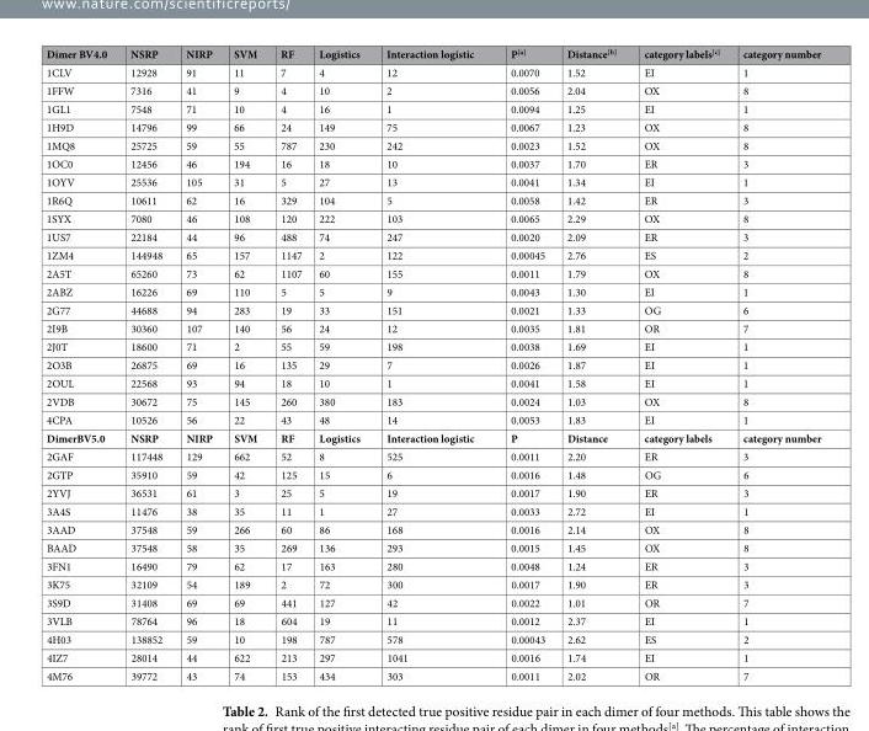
<table><thead><tr><td>Dimer BV4.0</td><td>NSRP</td><td>NIRP</td><td>SVM</td><td>RF</td><td>Logistics</td><td>Interaction logistic</td><td>P<sup>[a]</sup></td><td>Distance<sup>[b]</sup></td><td>category labels<sup>[c]</sup></td><td>category number</td></tr></thead><tbody><tr><td>1CLV</td><td>12928</td><td>91</td><td>11</td><td>7</td><td>4</td><td>12</td><td>0.0070</td><td>1.52</td><td>EI</td><td>1</td></tr><tr><td>1FFW</td><td>7316</td><td>41</td><td>9</td><td>4</td><td>10</td><td>2</td><td>0.0056</td><td>2.04</td><td>OX</td><td>8</td></tr><tr><td>1GL1</td><td>7548</td><td>71</td><td>10</td><td>4</td><td>16</td><td>1</td><td>0.0094</td><td>1.25</td><td>EI</td><td>1</td></tr><tr><td>1H9D</td><td>14796</td><td>99</td><td>66</td><td>24</td><td>149</td><td>75</td><td>0.0067</td><td>1.23</td><td>OX</td><td>8</td></tr><tr><td>1MQ8</td><td>25725</td><td>59</td><td>55</td><td>787</td><td>230</td><td>242</td><td>0.0023</td><td>1.52</td><td>OX</td><td>8</td></tr><tr><td>1OC0</td><td>12456</td><td>46</td><td>194</td><td>16</td><td>18</td><td>10</td><td>0.0037</td><td>1.70</td><td>ER</td><td>3</td></tr><tr><td>1OYV</td><td>25536</td><td>105</td><td>31</td><td>5</td><td>27</td><td>13</td><td>0.0041</td><td>1.34</td><td>EI</td><td>1</td></tr><tr><td>1R6Q</td><td>10611</td><td>62</td><td>16</td><td>329</td><td>104</td><td>5</td><td>0.0058</td><td>1.42</td><td>ER</td><td>3</td></tr><tr><td>1SYX</td><td>7080</td><td>46</td><td>108</td><td>120</td><td>222</td><td>103</td><td>0.0065</td><td>2.29</td><td>OX</td><td>8</td></tr><tr><td>1US7</td><td>22184</td><td>44</td><td>96</td><td>488</td><td>74</td><td>247</td><td>0.0020</td><td>2.09</td><td>ER</td><td>3</td></tr><tr><td>1ZM4</td><td>144948</td><td>65</td><td>157</td><td>1147</td><td>2</td><td>122</td><td>0.00045</td><td>2.76</td><td>ES</td><td>2</td></tr><tr><td>2A5T</td><td>65260</td><td>73</td><td>62</td><td>1107</td><td>60</td><td>155</td><td>0.0011</td><td>1.79</td><td>OX</td><td>8</td></tr><tr><td>2ABZ</td><td>16226</td><td>69</td><td>110</td><td>5</td><td>5</td><td>9</td><td>0.0043</td><td>1.30</td><td>EI</td><td>1</td></tr><tr><td>2G77</td><td>44688</td><td>94</td><td>283</td><td>19</td><td>33</td><td>151</td><td>0.0021</td><td>1.33</td><td>OG</td><td>6</td></tr><tr><td>2I9B</td><td>30360</td><td>107</td><td>140</td><td>56</td><td>24</td><td>12</td><td>0.0035</td><td>1.81</td><td>OR</td><td>7</td></tr><tr><td>2J0T</td><td>18600</td><td>71</td><td>2</td><td>55</td><td>59</td><td>198</td><td>0.0038</td><td>1.69</td><td>EI</td><td>1</td></tr><tr><td>2O3B</td><td>26875</td><td>69</td><td>16</td><td>135</td><td>29</td><td>7</td><td>0.0026</td><td>1.87</td><td>EI</td><td>1</td></tr><tr><td>2OUL</td><td>22568</td><td>93</td><td>94</td><td>18</td><td>10</td><td>1</td><td>0.0041</td><td>1.58</td><td>EI</td><td>1</td></tr><tr><td>2VDB</td><td>30672</td><td>75</td><td>145</td><td>260</td><td>380</td><td>183</td><td>0.0024</td><td>1.03</td><td>OX</td><td>8</td></tr><tr><td>4CPA</td><td>10526</td><td>56</td><td>22</td><td>43</td><td>48</td><td>14</td><td>0.0053</td><td>1.83</td><td>EI</td><td>1</td></tr><tr><td>DimerBV5.0</td><td>NSRP</td><td>NIRP</td><td>SVM</td><td>RF</td><td>Logistics</td><td>Interaction logistic</td><td>P</td><td>Distance</td><td>category labels</td><td>category number</td></tr><tr><td>2GAF</td><td>117448</td><td>129</td><td>662</td><td>52</td><td>8</td><td>525</td><td>0.0011</td><td>2.20</td><td>ER</td><td>3</td></tr><tr><td>2GTP</td><td>35910</td><td>59</td><td>42</td><td>125</td><td>15</td><td>6</td><td>0.0016</td><td>1.48</td><td>OG</td><td>6</td></tr><tr><td>2YVJ</td><td>36531</td><td>61</td><td>3</td><td>25</td><td>5</td><td>19</td><td>0.0017</td><td>1.90</td><td>ER</td><td>3</td></tr><tr><td>3A4S</td><td>11476</td><td>38</td><td>35</td><td>11</td><td>1</td><td>27</td><td>0.0033</td><td>2.72</td><td>EI</td><td>1</td></tr><tr><td>3AAD</td><td>37548</td><td>59</td><td>266</td><td>60</td><td>86</td><td>168</td><td>0.0016</td><td>2.14</td><td>OX</td><td>8</td></tr><tr><td>BAAD</td><td>37548</td><td>58</td><td>35</td><td>269</td><td>136</td><td>293</td><td>0.0015</td><td>1.45</td><td>OX</td><td>8</td></tr><tr><td>3FN1</td><td>16490</td><td>79</td><td>62</td><td>17</td><td>163</td><td>280</td><td>0.0048</td><td>1.24</td><td>ER</td><td>3</td></tr><tr><td>3K75</td><td>32109</td><td>54</td><td>189</td><td>2</td><td>72</td><td>300</td><td>0.0017</td><td>1.90</td><td>ER</td><td>3</td></tr><tr><td>3S9D</td><td>31408</td><td>69</td><td>69</td><td>441</td><td>127</td><td>42</td><td>0.0022</td><td>1.01</td><td>OR</td><td>7</td></tr><tr><td>3VLB</td><td>78764</td><td>96</td><td>18</td><td>604</td><td>19</td><td>11</td><td>0.0012</td><td>2.37</td><td>EI</td><td>1</td></tr><tr><td>4H03</td><td>138852</td><td>59</td><td>10</td><td>198</td><td>787</td><td>578</td><td>0.00043</td><td>2.62</td><td>ES</td><td>2</td></tr><tr><td>4IZ7</td><td>28014</td><td>44</td><td>622</td><td>213</td><td>297</td><td>1041</td><td>0.0016</td><td>1.74</td><td>EI</td><td>1</td></tr><tr><td>4M76</td><td>39772</td><td>43</td><td>74</td><td>153</td><td>434</td><td>303</td><td>0.0011</td><td>2.02</td><td>OR</td><td>7</td></tr></tbody></table>